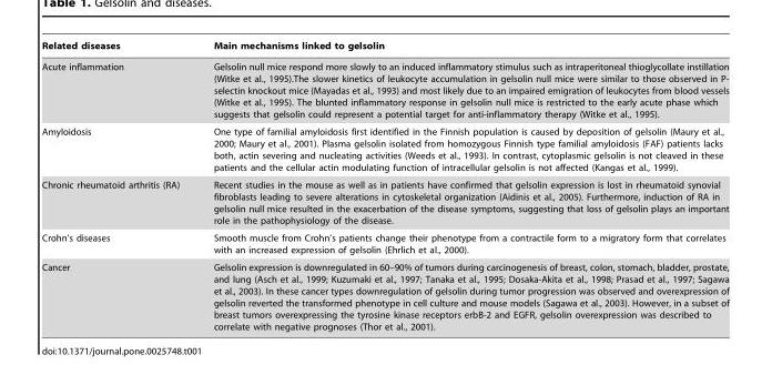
<table><thead><tr><td>Related diseases</td><td>Main mechanisms linked to gelsolin</td></tr></thead><tbody><tr><td>Acute inflammation</td><td>Gelsolin null mice respond more slowly to an induced inflammatory stimulus such as intraperitoneal thioglycollate instillation (Witke et al., 1995).The slower kinetics of leukocyte accumulation in gelsolin null mice were similar to those observed in P- selectin knockout mice (Mayadas et al., 1993) and most likely due to an impaired emigration of leukocytes from blood vessels (Witke et al., 1995). The blunted inflammatory response in gelsolin null mice is restricted to the early acute phase which suggests that gelsolin could represent a potential target for anti-inflammatory therapy (Witke et al., 1995).</td></tr><tr><td>Amyloidosis</td><td>One type of familial amyloidosis first identified in the Finnish population is caused by deposition of gelsolin (Maury et al., 2000; Maury et al., 2001). Plasma gelsolin isolated from homozygous Finnish type familial amyloidosis (FAF) patients lacks both, actin severing and nucleating activities (Weeds et al., 1993). In contrast, cytoplasmic gelsolin is not cleaved in these patients and the cellular actin modulating function of intracellular gelsolin is not affected (Kangas et al., 1999).</td></tr><tr><td>Chronic rheumatoid arthritis (RA)</td><td>Recent studies in the mouse as well as in patients have confirmed that gelsolin expression is lost in rheumatoid synovial fibroblasts leading to severe alterations in cytoskeletal organization (Aidinis et al., 2005). Furthermore, induction of RA in gelsolin null mice resulted in the exacerbation of the disease symptoms, suggesting that loss of gelsolin plays an important role in the pathophysiology of the disease.</td></tr><tr><td>Crohn’s diseases</td><td>Smooth muscle from Crohn’s patients change their phenotype from a contractile form to a migratory form that correlates with an increased expression of gelsolin (Ehrlich et al., 2000).</td></tr><tr><td>Cancer</td><td>Gelsolin expression is downregulated in 60–90% of tumors during carcinogenesis of breast, colon, stomach, bladder, prostate, and lung (Asch et al., 1999; Kuzumaki et al., 1997; Tanaka et al., 1995; Dosaka-Akita et al., 1998; Prasad et al., 1997; Sagawa et al., 2003). In these cancer types downregulation of gelsolin during tumor progression was observed and overexpression of gelsolin reverted the transformed phenotype in cell culture and mouse models (Sagawa et al., 2003). However, in a subset of breast tumors overexpressing the tyrosine kinase receptors erbB-2 and EGFR, gelsolin overexpression was described to correlate with negative prognoses (Thor et al., 2001).</td></tr></tbody></table>